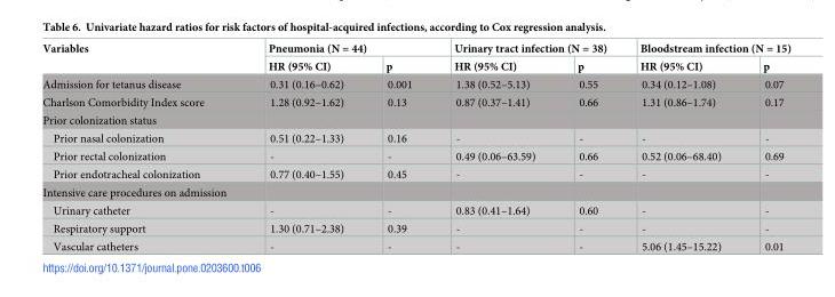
<table><thead><tr><td rowspan="2">Variables</td><td colspan="2">Pneumonia (N = 44)</td><td colspan="2">Urinary tract infection (N = 38)</td><td colspan="2">Bloodstream infection (N = 15)</td></tr><tr><td>HR (95% CI)</td><td>p</td><td>HR (95% CI)</td><td>p</td><td>HR (95% CI)</td><td>p</td></tr></thead><tbody><tr><td>Admission for tetanus disease</td><td>0.31 (0.16–0.62)</td><td>0.001</td><td>1.38 (0.52–5.13)</td><td>0.55</td><td>0.34 (0.12–1.08)</td><td>0.07</td></tr><tr><td>Charlson Comorbidity Index score</td><td>1.28 (0.92–1.62)</td><td>0.13</td><td>0.87 (0.37–1.41)</td><td>0.66</td><td>1.31 (0.86–1.74)</td><td>0.17</td></tr><tr><td colspan="7">Prior colonization status</td></tr><tr><td>Prior nasal colonization</td><td>0.51 (0.22–1.33)</td><td>0.16</td><td>-</td><td>-</td><td>-</td><td>-</td></tr><tr><td>Prior rectal colonization</td><td>-</td><td>-</td><td>0.49 (0.06–63.59)</td><td>0.66</td><td>0.52 (0.06–68.40)</td><td>0.69</td></tr><tr><td>Prior endotracheal colonization</td><td>0.77 (0.40–1.55)</td><td>0.45</td><td>-</td><td>-</td><td>-</td><td>-</td></tr><tr><td colspan="7">Intensive care procedures on admission</td></tr><tr><td>Urinary catheter</td><td>-</td><td>-</td><td>0.83 (0.41–1.64)</td><td>0.60</td><td>-</td><td>-</td></tr><tr><td>Respiratory support</td><td>1.30 (0.71–2.38)</td><td>0.39</td><td>-</td><td>-</td><td>-</td><td>-</td></tr><tr><td>Vascular catheters</td><td>-</td><td>-</td><td>-</td><td>-</td><td>5.06 (1.45–15.22)</td><td>0.01</td></tr></tbody></table>